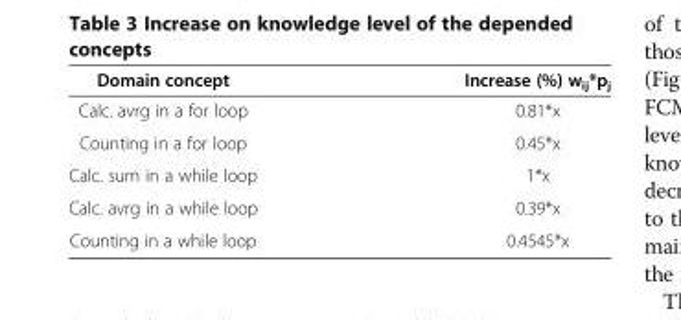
<table><thead><tr><td>Domain concept</td><td>Increase (%) w<sub>ij</sub>*p<sub>j</sub></td></tr></thead><tbody><tr><td>Calc. avrg in a for loop</td><td>0.81*x</td></tr><tr><td>Counting in a for loop</td><td>0.45*x</td></tr><tr><td>Calc. sum in a while loop</td><td>1*x</td></tr><tr><td>Calc. avrg in a while loop</td><td>0.39*x</td></tr><tr><td>Counting in a while loop</td><td>0.4545*x</td></tr></tbody></table>